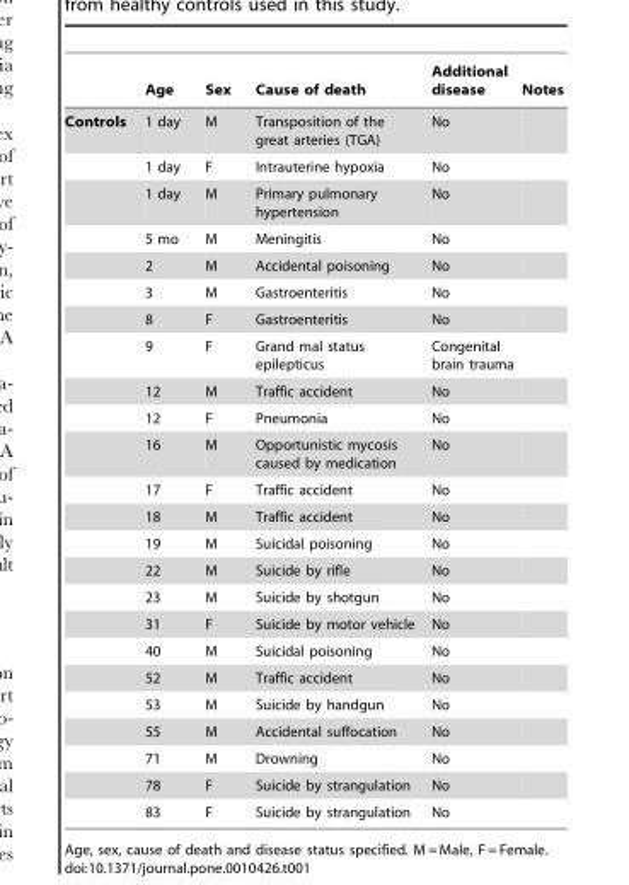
<table><thead><tr><td></td><td>Age</td><td>Sex</td><td>Cause of death</td><td>Additional disease</td><td>Notes</td></tr></thead><tbody><tr><td rowspan="24">Controls</td><td>1 day</td><td>M</td><td>Transposition of the great arteries (TGA)</td><td>No</td><td></td></tr><tr><td>1 day</td><td>F</td><td>Intrauterine hypoxia</td><td>No</td><td></td></tr><tr><td>1 day</td><td>M</td><td>Primary pulmonary hypertension</td><td>No</td><td></td></tr><tr><td>5 mo</td><td>M</td><td>Meningitis</td><td>No</td><td></td></tr><tr><td>2</td><td>M</td><td>Accidental poisoning</td><td>No</td><td></td></tr><tr><td>3</td><td>M</td><td>Gastroenteritis</td><td>No</td><td></td></tr><tr><td>8</td><td>F</td><td>Gastroenteritis</td><td>No</td><td></td></tr><tr><td>9</td><td>F</td><td>Grand mal status epilepticus</td><td>Congenital brain trauma</td><td></td></tr><tr><td>12</td><td>M</td><td>Traffic accident</td><td>No</td><td></td></tr><tr><td>12</td><td>F</td><td>Pneumonia</td><td>No</td><td></td></tr><tr><td>16</td><td>M</td><td>Opportunistic mycosis caused by medication</td><td>No</td><td></td></tr><tr><td>17</td><td>F</td><td>Traffic accident</td><td>No</td><td></td></tr><tr><td>18</td><td>M</td><td>Traffic accident</td><td>No</td><td></td></tr><tr><td>19</td><td>M</td><td>Suicidal poisoning</td><td>No</td><td></td></tr><tr><td>22</td><td>M</td><td>Suicide by rifle</td><td>No</td><td></td></tr><tr><td>23</td><td>M</td><td>Suicide by shotgun</td><td>No</td><td></td></tr><tr><td>31</td><td>F</td><td>Suicide by motor vehicle</td><td>No</td><td></td></tr><tr><td>40</td><td>M</td><td>Suicidal poisoning</td><td>No</td><td></td></tr><tr><td>52</td><td>M</td><td>Traffic accident</td><td>No</td><td></td></tr><tr><td>53</td><td>M</td><td>Suicide by handgun</td><td>No</td><td></td></tr><tr><td>55</td><td>M</td><td>Accidental suffocation</td><td>No</td><td></td></tr><tr><td>71</td><td>M</td><td>Drowning</td><td>No</td><td></td></tr><tr><td>78</td><td>F</td><td>Suicide by strangulation</td><td>No</td><td></td></tr><tr><td>83</td><td>F</td><td>Suicide by strangulation</td><td>No</td><td></td></tr></tbody></table>